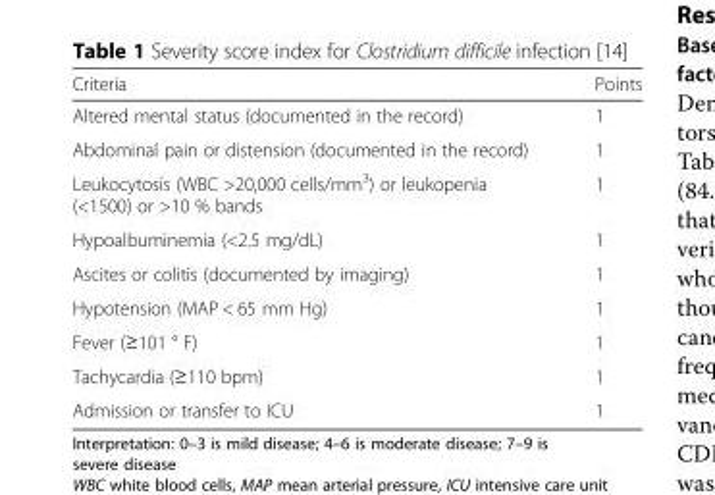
<table><thead><tr><td>Criteria</td><td>Points</td></tr></thead><tbody><tr><td>Altered mental status (documented in the record)</td><td>1</td></tr><tr><td>Abdominal pain or distension (documented in the record)</td><td>1</td></tr><tr><td>Leukocytosis (WBC &gt;20,000 cells/mm<sup>3</sup>) or leukopenia (&lt;1500) or &gt;10 % bands</td><td>1</td></tr><tr><td>Hypoalbuminemia (&lt;2.5 mg/dL)</td><td>1</td></tr><tr><td>Ascites or colitis (documented by imaging)</td><td>1</td></tr><tr><td>Hypotension (MAP &lt; 65 mm Hg)</td><td>1</td></tr><tr><td>Fever (≥101 ° F)</td><td>1</td></tr><tr><td>Tachycardia (≥110 bpm)</td><td>1</td></tr><tr><td>Admission or transfer to ICU</td><td>1</td></tr></tbody></table>